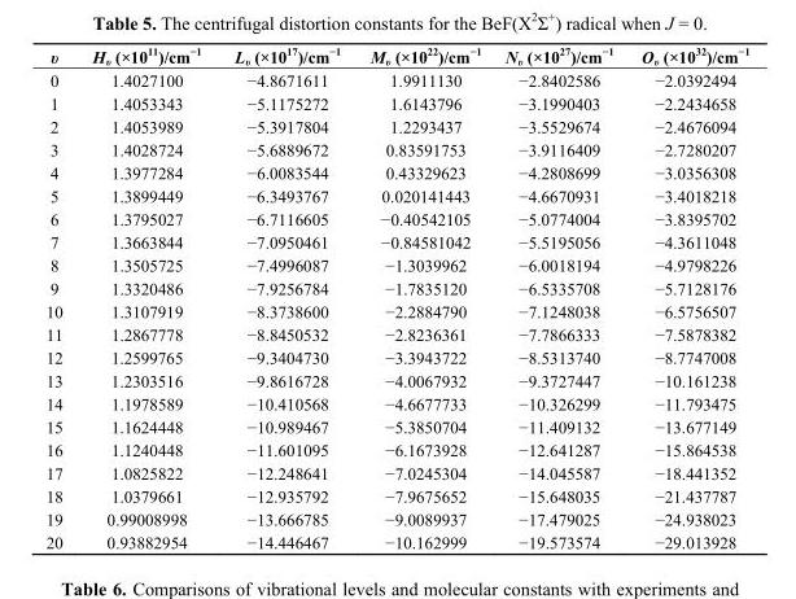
<table><thead><tr><td>υ</td><td>H<sub>υ</sub> (×10<sup>11</sup>)/cm<sup>−1</sup></td><td>L<sub>υ</sub> (×10<sup>17</sup>)/cm<sup>−1</sup></td><td>M<sub>υ</sub> (×10<sup>22</sup>)/cm<sup>−1</sup></td><td>N<sub>υ</sub> (×10<sup>27</sup>)/cm<sup>−1</sup></td><td>O<sub>υ</sub> (×10<sup>32</sup>)/cm<sup>−1</sup></td></tr></thead><tbody><tr><td>0</td><td>1.4027100</td><td>−4.8671611</td><td>1.9911130</td><td>−2.8402586</td><td>−2.0392494</td></tr><tr><td>1</td><td>1.4053343</td><td>−5.1175272</td><td>1.6143796</td><td>−3.1990403</td><td>−2.2434658</td></tr><tr><td>2</td><td>1.4053989</td><td>−5.3917804</td><td>1.2293437</td><td>−3.5529674</td><td>−2.4676094</td></tr><tr><td>3</td><td>1.4028724</td><td>−5.6889672</td><td>0.83591753</td><td>−3.9116409</td><td>−2.7280207</td></tr><tr><td>4</td><td>1.3977284</td><td>−6.0083544</td><td>0.43329623</td><td>−4.2808699</td><td>−3.0356308</td></tr><tr><td>5</td><td>1.3899449</td><td>−6.3493767</td><td>0.020141443</td><td>−4.6670931</td><td>−3.4018218</td></tr><tr><td>6</td><td>1.3795027</td><td>−6.7116605</td><td>−0.40542105</td><td>−5.0774004</td><td>−3.8395702</td></tr><tr><td>7</td><td>1.3663844</td><td>−7.0950461</td><td>−0.84581042</td><td>−5.5195056</td><td>−4.3611048</td></tr><tr><td>8</td><td>1.3505725</td><td>−7.4996087</td><td>−1.3039962</td><td>−6.0018194</td><td>−4.9798226</td></tr><tr><td>9</td><td>1.3320486</td><td>−7.9256784</td><td>−1.7835120</td><td>−6.5335708</td><td>−5.7128176</td></tr><tr><td>10</td><td>1.3107919</td><td>−8.3738600</td><td>−2.2884790</td><td>−7.1248038</td><td>−6.5756507</td></tr><tr><td>11</td><td>1.2867778</td><td>−8.8450532</td><td>−2.8236361</td><td>−7.7866333</td><td>−7.5878382</td></tr><tr><td>12</td><td>1.2599765</td><td>−9.3404730</td><td>−3.3943722</td><td>−8.5313740</td><td>−8.7747008</td></tr><tr><td>13</td><td>1.2303516</td><td>−9.8616728</td><td>−4.0067932</td><td>−9.3727447</td><td>−10.161238</td></tr><tr><td>14</td><td>1.1978589</td><td>−10.410568</td><td>−4.6677733</td><td>−10.326299</td><td>−11.793475</td></tr><tr><td>15</td><td>1.1624448</td><td>−10.989467</td><td>−5.3850704</td><td>−11.409132</td><td>−13.677149</td></tr><tr><td>16</td><td>1.1240448</td><td>−11.601095</td><td>−6.1673928</td><td>−12.641287</td><td>−15.864538</td></tr><tr><td>17</td><td>1.0825822</td><td>−12.248641</td><td>−7.0245304</td><td>−14.045587</td><td>−18.441352</td></tr><tr><td>18</td><td>1.0379661</td><td>−12.935792</td><td>−7.9675652</td><td>−15.648035</td><td>−21.437787</td></tr><tr><td>19</td><td>0.99008998</td><td>−13.666785</td><td>−9.0089937</td><td>−17.479025</td><td>−24.938023</td></tr><tr><td>20</td><td>0.93882954</td><td>−14.446467</td><td>−10.162999</td><td>−19.573574</td><td>−29.013928</td></tr></tbody></table>